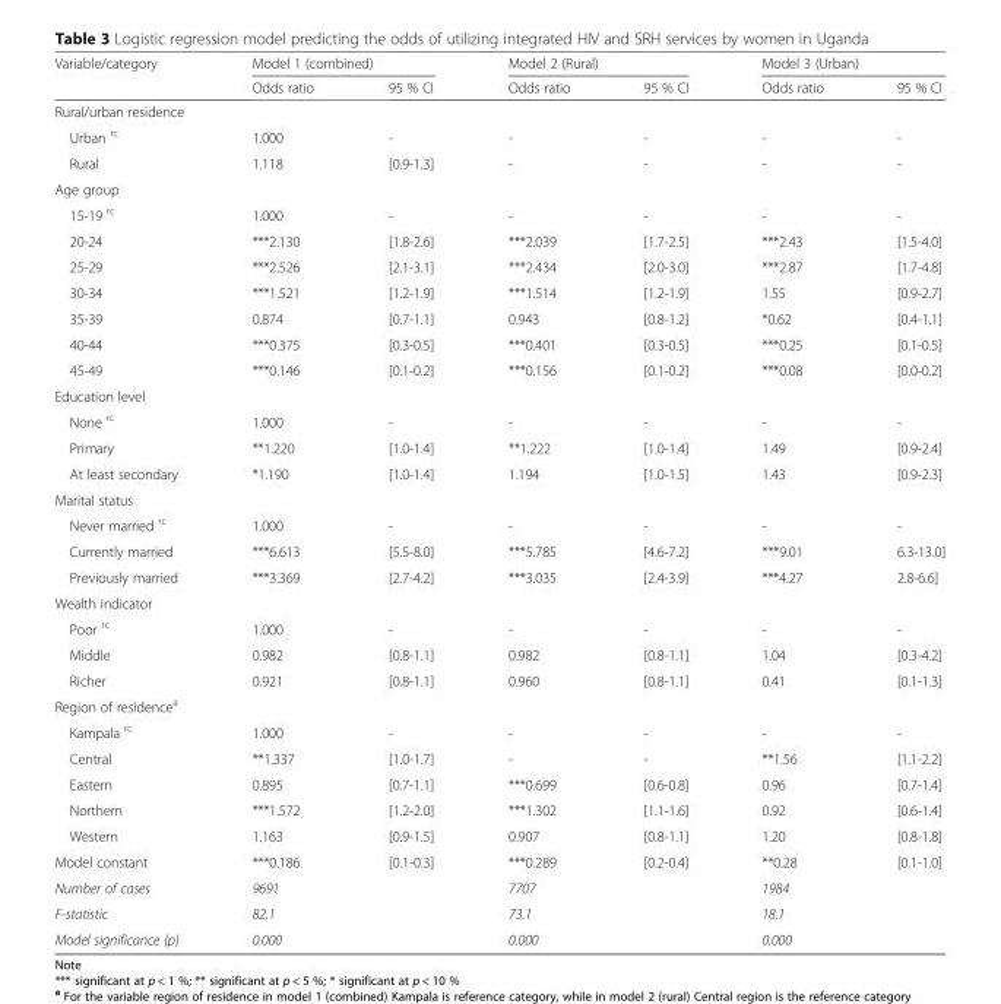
<table><thead><tr><td rowspan="2">Variable/category</td><td colspan="2">Model 1 (combined)</td><td colspan="2">Model 2 (Rural)</td><td colspan="2">Model 3 (Urban)</td></tr><tr><td>Odds ratio</td><td>95 % CI</td><td>Odds ratio</td><td>95 % CI</td><td>Odds ratio</td><td>95 % CI</td></tr></thead><tbody><tr><td colspan="7">Rural/urban residence</td></tr><tr><td>Urban <sup>rc</sup></td><td>1.000</td><td>-</td><td>-</td><td>-</td><td>-</td><td>-</td></tr><tr><td>Rural</td><td>1.118</td><td>[0.9-1.3]</td><td>-</td><td>-</td><td>-</td><td>-</td></tr><tr><td colspan="7">Age group</td></tr><tr><td>15-19 <sup>rc</sup></td><td>1.000</td><td>-</td><td>-</td><td>-</td><td>-</td><td>-</td></tr><tr><td>20-24</td><td>***2.130</td><td>[1.8-2.6]</td><td>***2.039</td><td>[1.7-2.5]</td><td>***2.43</td><td>[1.5-4.0]</td></tr><tr><td>25-29</td><td>***2.526</td><td>[2.1-3.1]</td><td>***2.434</td><td>[2.0-3.0]</td><td>***2.87</td><td>[1.7-4.8]</td></tr><tr><td>30-34</td><td>***1.521</td><td>[1.2-1.9]</td><td>***1.514</td><td>[1.2-1.9]</td><td>1.55</td><td>[0.9-2.7]</td></tr><tr><td>35-39</td><td>0.874</td><td>[0.7-1.1]</td><td>0.943</td><td>[0.8-1.2]</td><td>*0.62</td><td>[0.4-1.1]</td></tr><tr><td>40-44</td><td>***0.375</td><td>[0.3-0.5]</td><td>***0.401</td><td>[0.3-0.5]</td><td>***0.25</td><td>[0.1-0.5]</td></tr><tr><td>45-49</td><td>***0.146</td><td>[0.1-0.2]</td><td>***0.156</td><td>[0.1-0.2]</td><td>***0.08</td><td>[0.0-0.2]</td></tr><tr><td colspan="7">Education level</td></tr><tr><td>None <sup>rc</sup></td><td>1.000</td><td>-</td><td>-</td><td>-</td><td>-</td><td>-</td></tr><tr><td>Primary</td><td>**1.220</td><td>[1.0-1.4]</td><td>**1.222</td><td>[1.0-1.4]</td><td>1.49</td><td>[0.9-2.4]</td></tr><tr><td>At least secondary</td><td>*1.190</td><td>[1.0-1.4]</td><td>1.194</td><td>[1.0-1.5]</td><td>1.43</td><td>[0.9-2.3]</td></tr><tr><td colspan="7">Marital status</td></tr><tr><td>Never married <sup>rc</sup></td><td>1.000</td><td>-</td><td>-</td><td>-</td><td>-</td><td>-</td></tr><tr><td>Currently married</td><td>***6.613</td><td>[5.5-8.0]</td><td>***5.785</td><td>[4.6-7.2]</td><td>***9.01</td><td>6.3-13.0]</td></tr><tr><td>Previously married</td><td>***3.369</td><td>[2.7-4.2]</td><td>***3.035</td><td>[2.4-3.9]</td><td>***4.27</td><td>2.8-6.6]</td></tr><tr><td colspan="7">Wealth indicator</td></tr><tr><td>Poor <sup>rc</sup></td><td>1.000</td><td>-</td><td>-</td><td>-</td><td>-</td><td>-</td></tr><tr><td>Middle</td><td>0.982</td><td>[0.8-1.1]</td><td>0.982</td><td>[0.8-1.1]</td><td>1.04</td><td>[0.3-4.2]</td></tr><tr><td>Richer</td><td>0.921</td><td>[0.8-1.1]</td><td>0.960</td><td>[0.8-1.1]</td><td>0.41</td><td>[0.1-1.3]</td></tr><tr><td colspan="7">Region of residence<sup>a</sup></td></tr><tr><td>Kampala <sup>rc</sup></td><td>1.000</td><td>-</td><td>-</td><td>-</td><td>-</td><td>-</td></tr><tr><td>Central</td><td>**1.337</td><td>[1.0-1.7]</td><td>-</td><td>-</td><td>**1.56</td><td>[1.1-2.2]</td></tr><tr><td>Eastern</td><td>0.895</td><td>[0.7-1.1]</td><td>***0.699</td><td>[0.6-0.8]</td><td>0.96</td><td>[0.7-1.4]</td></tr><tr><td>Northern</td><td>***1.572</td><td>[1.2-2.0]</td><td>***1.302</td><td>[1.1-1.6]</td><td>0.92</td><td>[0.6-1.4]</td></tr><tr><td>Western</td><td>1.163</td><td>[0.9-1.5]</td><td>0.907</td><td>[0.8-1.1]</td><td>1.20</td><td>[0.8-1.8]</td></tr><tr><td>Model constant</td><td>***0.186</td><td>[0.1-0.3]</td><td>***0.289</td><td>[0.2-0.4]</td><td>**0.28</td><td>[0.1-1.0]</td></tr><tr><td>Number of cases</td><td>9691</td><td></td><td>7707</td><td></td><td>1984</td><td></td></tr><tr><td>F-statistic</td><td>82.1</td><td></td><td>73.1</td><td></td><td>18.1</td><td></td></tr><tr><td>Model significance (p)</td><td>0.000</td><td></td><td>0.000</td><td></td><td>0.000</td><td></td></tr></tbody></table>